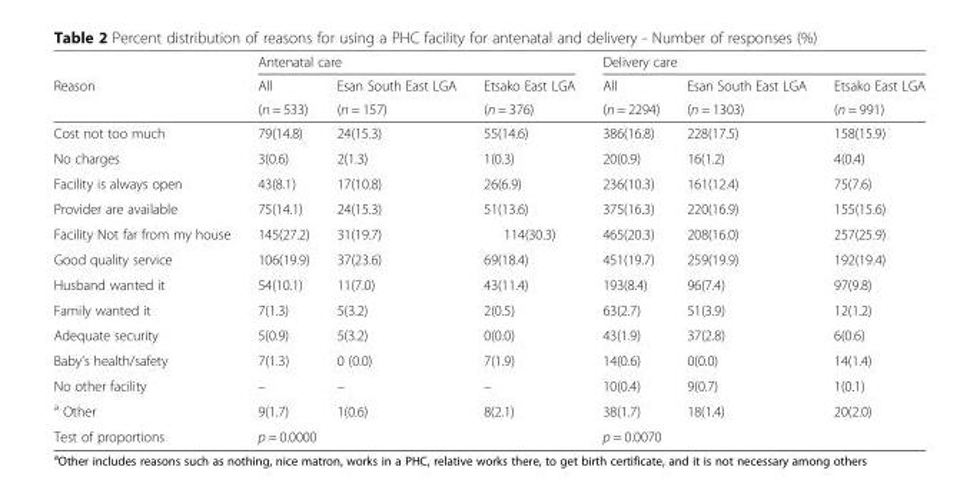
<table><thead><tr><td rowspan="3">Reason</td><td colspan="3">Antenatal care</td><td colspan="3">Delivery care</td></tr><tr><td rowspan="2">All (n = 533)</td><td rowspan="2">Esan South East LGA (n = 157)</td><td rowspan="2">Etsako East LGA (n = 376)</td><td rowspan="2">All (n = 2294)</td><td rowspan="2">Esan South East LGA (n = 1303)</td><td rowspan="2">Etsako East LGA (n = 991)</td></tr><tr></tr></thead><tbody><tr><td>Cost not too much</td><td>79(14.8)</td><td>24(15.3)</td><td>55(14.6)</td><td>386(16.8)</td><td>228(17.5)</td><td>158(15.9)</td></tr><tr><td>No charges</td><td>3(0.6)</td><td>2(1.3)</td><td>1(0.3)</td><td>20(0.9)</td><td>16(1.2)</td><td>4(0.4)</td></tr><tr><td>Facility is always open</td><td>43(8.1)</td><td>17(10.8)</td><td>26(6.9)</td><td>236(10.3)</td><td>161(12.4)</td><td>75(7.6)</td></tr><tr><td>Provider are available</td><td>75(14.1)</td><td>24(15.3)</td><td>51(13.6)</td><td>375(16.3)</td><td>220(16.9)</td><td>155(15.6)</td></tr><tr><td>Facility Not far from my house</td><td>145(27.2)</td><td>31(19.7)</td><td>114(30.3)</td><td>465(20.3)</td><td>208(16.0)</td><td>257(25.9)</td></tr><tr><td>Good quality service</td><td>106(19.9)</td><td>37(23.6)</td><td>69(18.4)</td><td>451(19.7)</td><td>259(19.9)</td><td>192(19.4)</td></tr><tr><td>Husband wanted it</td><td>54(10.1)</td><td>11(7.0)</td><td>43(11.4)</td><td>193(8.4)</td><td>96(7.4)</td><td>97(9.8)</td></tr><tr><td>Family wanted it</td><td>7(1.3)</td><td>5(3.2)</td><td>2(0.5)</td><td>63(2.7)</td><td>51(3.9)</td><td>12(1.2)</td></tr><tr><td>Adequate security</td><td>5(0.9)</td><td>5(3.2)</td><td>0(0.0)</td><td>43(1.9)</td><td>37(2.8)</td><td>6(0.6)</td></tr><tr><td>Baby’s health/safety</td><td>7(1.3)</td><td>0 (0.0)</td><td>7(1.9)</td><td>14(0.6)</td><td>0(0.0)</td><td>14(1.4)</td></tr><tr><td>No other facility</td><td>–</td><td>–</td><td>–</td><td>10(0.4)</td><td>9(0.7)</td><td>1(0.1)</td></tr><tr><td><sup>a</sup> Other</td><td>9(1.7)</td><td>1(0.6)</td><td>8(2.1)</td><td>38(1.7)</td><td>18(1.4)</td><td>20(2.0)</td></tr><tr><td>Test of proportions</td><td colspan="3">p = 0.0000</td><td colspan="3">p = 0.0070</td></tr></tbody></table>